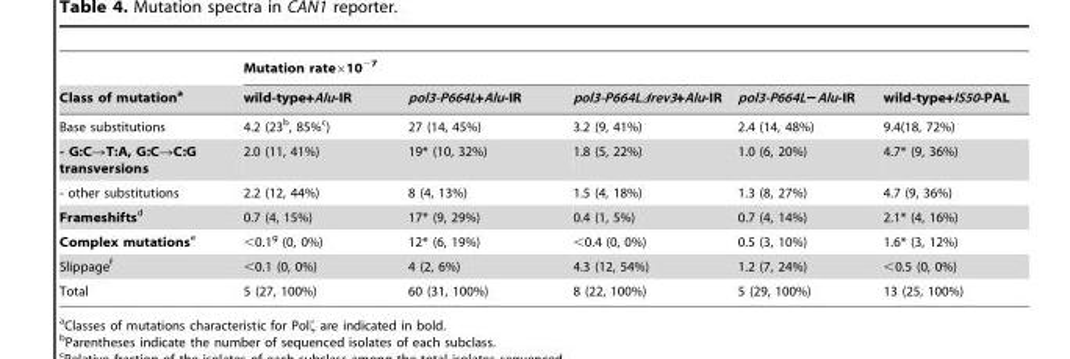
<table><thead><tr><td rowspan="2">Class of mutation<sup>a</sup></td><td colspan="5">Mutation rate×10<sup>−7</sup></td></tr><tr><td>wild-type+Alu-IR</td><td>pol3-P664L+Alu-IR</td><td>pol3-P664LΔrev3+Alu-IR</td><td>pol3-P664L−Alu-IR</td><td>wild-type+IS50-PAL</td></tr></thead><tbody><tr><td>Base substitutions</td><td>4.2 (23<sup>b</sup>, 85%<sup>c</sup>)</td><td>27 (14, 45%)</td><td>3.2 (9, 41%)</td><td>2.4 (14, 48%)</td><td>9.4(18, 72%)</td></tr><tr><td>- G:C→T:A, G:C→C:G transversions</td><td>2.0 (11, 41%)</td><td>19* (10, 32%)</td><td>1.8 (5, 22%)</td><td>1.0 (6, 20%)</td><td>4.7* (9, 36%)</td></tr><tr><td>- other substitutions</td><td>2.2 (12, 44%)</td><td>8 (4, 13%)</td><td>1.5 (4, 18%)</td><td>1.3 (8, 27%)</td><td>4.7 (9, 36%)</td></tr><tr><td>Frameshiftsd</td><td>0.7 (4, 15%)</td><td>17* (9, 29%)</td><td>0.4 (1, 5%)</td><td>0.7 (4, 14%)</td><td>2.1* (4, 16%)</td></tr><tr><td>Complex mutationse</td><td>&lt;0.1<sup>g</sup> (0, 0%)</td><td>12* (6, 19%)</td><td>&lt;0.4 (0, 0%)</td><td>0.5 (3, 10%)</td><td>1.6* (3, 12%)</td></tr><tr><td>Slippage<sup>f</sup></td><td>&lt;0.1 (0, 0%)</td><td>4 (2, 6%)</td><td>4.3 (12, 54%)</td><td>1.2 (7, 24%)</td><td>&lt;0.5 (0, 0%)</td></tr><tr><td>Total</td><td>5 (27, 100%)</td><td>60 (31, 100%)</td><td>8 (22, 100%)</td><td>5 (29, 100%)</td><td>13 (25, 100%)</td></tr></tbody></table>